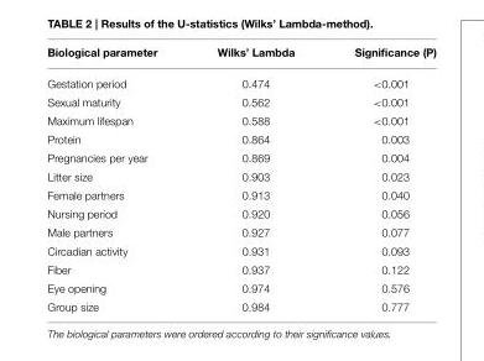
<table><thead><tr><td>Biological parameter</td><td>Wilks’ Lambda</td><td>Significance (P)</td></tr></thead><tbody><tr><td>Gestation period</td><td>0.474</td><td>&lt;0.001</td></tr><tr><td>Sexual maturity</td><td>0.562</td><td>&lt;0.001</td></tr><tr><td>Maximum lifespan</td><td>0.588</td><td>&lt;0.001</td></tr><tr><td>Protein</td><td>0.864</td><td>0.003</td></tr><tr><td>Pregnancies per year</td><td>0.869</td><td>0.004</td></tr><tr><td>Litter size</td><td>0.903</td><td>0.023</td></tr><tr><td>Female partners</td><td>0.913</td><td>0.040</td></tr><tr><td>Nursing period</td><td>0.920</td><td>0.056</td></tr><tr><td>Male partners</td><td>0.927</td><td>0.077</td></tr><tr><td>Circadian activity</td><td>0.931</td><td>0.093</td></tr><tr><td>Fiber</td><td>0.937</td><td>0.122</td></tr><tr><td>Eye opening</td><td>0.974</td><td>0.576</td></tr><tr><td>Group size</td><td>0.984</td><td>0.777</td></tr></tbody></table>